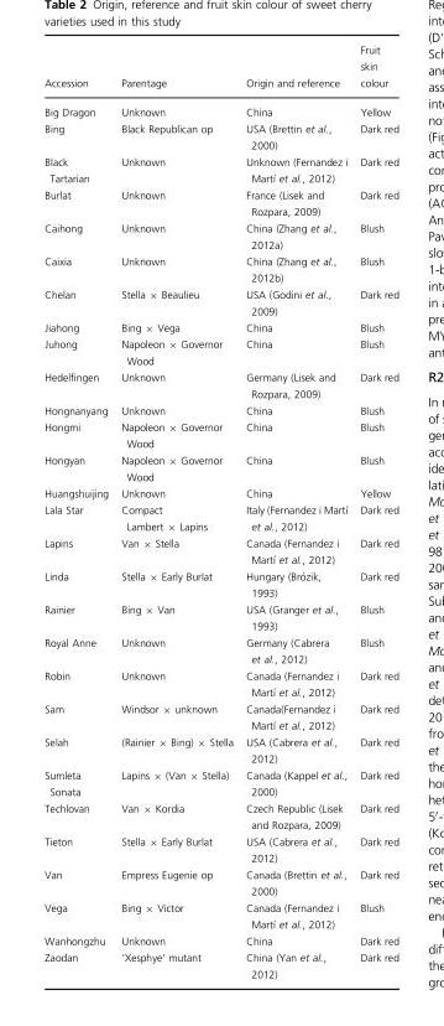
<table><thead><tr><td>Accession</td><td>Parentage</td><td>Origin and reference</td><td>Fruit skin colour</td></tr></thead><tbody><tr><td>Big Dragon</td><td>Unknown</td><td>China</td><td>Yellow</td></tr><tr><td>Bing</td><td>Black Republican op</td><td>USA (Brettin et al., 2000)</td><td>Dark red</td></tr><tr><td>Black Tartarian</td><td>Unknown</td><td>Unknown (Fernandez i Mart�ı et al., 2012)</td><td>Dark red</td></tr><tr><td>Burlat</td><td>Unknown</td><td>France (Lisek and Rozpara, 2009)</td><td>Dark red</td></tr><tr><td>Caihong</td><td>Unknown</td><td>China (Zhang et al., 2012a)</td><td>Blush</td></tr><tr><td>Caixia</td><td>Unknown</td><td>China (Zhang et al., 2012b)</td><td>Blush</td></tr><tr><td>Chelan</td><td>Stella × Beaulieu</td><td>USA (Godini et al., 2009)</td><td>Dark red</td></tr><tr><td>Jiahong</td><td>Bing × Vega</td><td>China</td><td>Blush</td></tr><tr><td>Juhong</td><td>Napoleon × Governor Wood</td><td>China</td><td>Blush</td></tr><tr><td>Hedelfingen</td><td>Unknown</td><td>Germany (Lisek and Rozpara, 2009)</td><td>Dark red</td></tr><tr><td>Hongnanyang</td><td>Unknown</td><td>China</td><td>Blush</td></tr><tr><td>Hongmi</td><td>Napoleon × Governor Wood</td><td>China</td><td>Blush</td></tr><tr><td>Hongyan</td><td>Napoleon × Governor Wood</td><td>China</td><td>Blush</td></tr><tr><td>Huangshuijing</td><td>Unknown</td><td>China</td><td>Yellow</td></tr><tr><td>Lala Star</td><td>Compact Lambert × Lapins</td><td>Italy (Fernandez i Mart�ı et al., 2012)</td><td>Dark red</td></tr><tr><td>Lapins</td><td>Van × Stella</td><td>Canada (Fernandez i Mart�ı et al., 2012)</td><td>Dark red</td></tr><tr><td>Linda</td><td>Stella × Early Burlat</td><td>Hungary (Br�ozik, 1993)</td><td>Dark red</td></tr><tr><td>Rainier</td><td>Bing × Van</td><td>USA (Granger et al., 1993)</td><td>Blush</td></tr><tr><td>Royal Anne</td><td>Unknown</td><td>Germany (Cabrera et al., 2012)</td><td>Blush</td></tr><tr><td>Robin</td><td>Unknown</td><td>Canada (Fernandez i Mart�ı et al., 2012)</td><td>Dark red</td></tr><tr><td>Sam</td><td>Windsor × unknown</td><td>Canada(Fernandez i Mart�ı et al., 2012)</td><td>Dark red</td></tr><tr><td>Selah</td><td>(Rainier × Bing) × Stella</td><td>USA (Cabrera et al., 2012)</td><td>Dark red</td></tr><tr><td>Sumleta Sonata</td><td>Lapins × (Van × Stella)</td><td>Canada (Kappel et al., 2000)</td><td>Dark red</td></tr><tr><td>Techlovan</td><td>Van × Kordia</td><td>Czech Republic (Lisek and Rozpara, 2009)</td><td>Dark red</td></tr><tr><td>Tieton</td><td>Stella × Early Burlat</td><td>USA (Cabrera et al., 2012)</td><td>Dark red</td></tr><tr><td>Van</td><td>Empress Eugenie op</td><td>Canada (Brettin et al., 2000)</td><td>Dark red</td></tr><tr><td>Vega</td><td>Bing × Victor</td><td>Canada (Fernandez i Mart�ı et al., 2012)</td><td>Blush</td></tr><tr><td>Wanhongzhu</td><td>Unknown</td><td>China</td><td>Dark red</td></tr><tr><td>Zaodan</td><td>‘Xesphye’ mutant</td><td>China (Yan et al., 2012)</td><td>Dark red</td></tr></tbody></table>